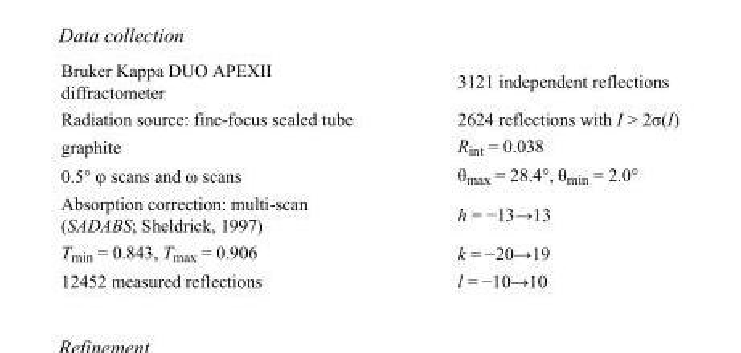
<table><tbody><tr><td>Bruker Kappa DUO APEXII diffractometer</td><td>3121 independent reflections</td></tr><tr><td>Radiation source: fine-focus sealed tube</td><td>2624 reflections with I &gt; 2σ(I)</td></tr><tr><td>graphite</td><td>R<sub>int</sub> = 0.038</td></tr><tr><td>0.5° φ scans and ω scans</td><td>θ<sub>max</sub> = 28.4°, θ<sub>min</sub> = 2.0°</td></tr><tr><td>Absorption correction: multi-scan (SADABS; Sheldrick, 1997)</td><td>h = −13→13</td></tr><tr><td>T<sub>min</sub> = 0.843, T<sub>max</sub> = 0.906</td><td>k = −20→19</td></tr><tr><td>12452 measured reflections</td><td>l = −10→10</td></tr></tbody></table>